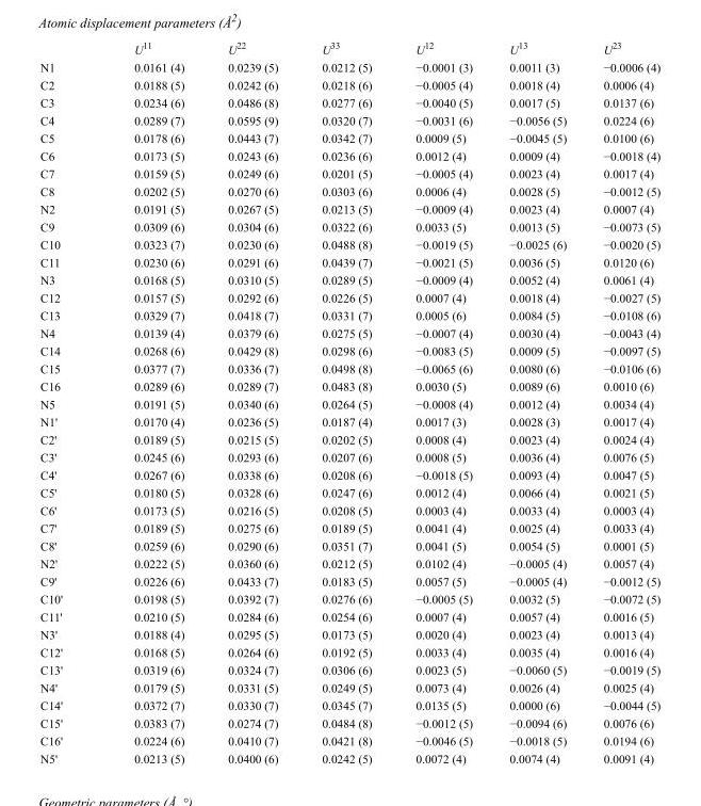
<table><thead><tr><td></td><td>U<sup>11</sup></td><td>U<sup>22</sup></td><td>U<sup>33</sup></td><td>U<sup>12</sup></td><td>U<sup>13</sup></td><td>U<sup>23</sup></td></tr></thead><tbody><tr><td>N1</td><td>0.0161 (4)</td><td>0.0239 (5)</td><td>0.0212 (5)</td><td>−0.0001 (3)</td><td>0.0011 (3)</td><td>−0.0006 (4)</td></tr><tr><td>C2</td><td>0.0188 (5)</td><td>0.0242 (6)</td><td>0.0218 (6)</td><td>−0.0005 (4)</td><td>0.0018 (4)</td><td>0.0006 (4)</td></tr><tr><td>C3</td><td>0.0234 (6)</td><td>0.0486 (8)</td><td>0.0277 (6)</td><td>−0.0040 (5)</td><td>0.0017 (5)</td><td>0.0137 (6)</td></tr><tr><td>C4</td><td>0.0289 (7)</td><td>0.0595 (9)</td><td>0.0320 (7)</td><td>−0.0031 (6)</td><td>−0.0056 (5)</td><td>0.0224 (6)</td></tr><tr><td>C5</td><td>0.0178 (6)</td><td>0.0443 (7)</td><td>0.0342 (7)</td><td>0.0009 (5)</td><td>−0.0045 (5)</td><td>0.0100 (6)</td></tr><tr><td>C6</td><td>0.0173 (5)</td><td>0.0243 (6)</td><td>0.0236 (6)</td><td>0.0012 (4)</td><td>0.0009 (4)</td><td>−0.0018 (4)</td></tr><tr><td>C7</td><td>0.0159 (5)</td><td>0.0249 (6)</td><td>0.0201 (5)</td><td>−0.0005 (4)</td><td>0.0023 (4)</td><td>0.0017 (4)</td></tr><tr><td>C8</td><td>0.0202 (5)</td><td>0.0270 (6)</td><td>0.0303 (6)</td><td>0.0006 (4)</td><td>0.0028 (5)</td><td>−0.0012 (5)</td></tr><tr><td>N2</td><td>0.0191 (5)</td><td>0.0267 (5)</td><td>0.0213 (5)</td><td>−0.0009 (4)</td><td>0.0023 (4)</td><td>0.0007 (4)</td></tr><tr><td>C9</td><td>0.0309 (6)</td><td>0.0304 (6)</td><td>0.0322 (6)</td><td>0.0033 (5)</td><td>0.0013 (5)</td><td>−0.0073 (5)</td></tr><tr><td>C10</td><td>0.0323 (7)</td><td>0.0230 (6)</td><td>0.0488 (8)</td><td>−0.0019 (5)</td><td>−0.0025 (6)</td><td>−0.0020 (5)</td></tr><tr><td>C11</td><td>0.0230 (6)</td><td>0.0291 (6)</td><td>0.0439 (7)</td><td>−0.0021 (5)</td><td>0.0036 (5)</td><td>0.0120 (6)</td></tr><tr><td>N3</td><td>0.0168 (5)</td><td>0.0310 (5)</td><td>0.0289 (5)</td><td>−0.0009 (4)</td><td>0.0052 (4)</td><td>0.0061 (4)</td></tr><tr><td>C12</td><td>0.0157 (5)</td><td>0.0292 (6)</td><td>0.0226 (5)</td><td>0.0007 (4)</td><td>0.0018 (4)</td><td>−0.0027 (5)</td></tr><tr><td>C13</td><td>0.0329 (7)</td><td>0.0418 (7)</td><td>0.0331 (7)</td><td>0.0005 (6)</td><td>0.0084 (5)</td><td>−0.0108 (6)</td></tr><tr><td>N4</td><td>0.0139 (4)</td><td>0.0379 (6)</td><td>0.0275 (5)</td><td>−0.0007 (4)</td><td>0.0030 (4)</td><td>−0.0043 (4)</td></tr><tr><td>C14</td><td>0.0268 (6)</td><td>0.0429 (8)</td><td>0.0298 (6)</td><td>−0.0083 (5)</td><td>0.0009 (5)</td><td>−0.0097 (5)</td></tr><tr><td>C15</td><td>0.0377 (7)</td><td>0.0336 (7)</td><td>0.0498 (8)</td><td>−0.0065 (6)</td><td>0.0080 (6)</td><td>−0.0106 (6)</td></tr><tr><td>C16</td><td>0.0289 (6)</td><td>0.0289 (7)</td><td>0.0483 (8)</td><td>0.0030 (5)</td><td>0.0089 (6)</td><td>0.0010 (6)</td></tr><tr><td>N5</td><td>0.0191 (5)</td><td>0.0340 (6)</td><td>0.0264 (5)</td><td>−0.0008 (4)</td><td>0.0012 (4)</td><td>0.0034 (4)</td></tr><tr><td>N1&#x27;</td><td>0.0170 (4)</td><td>0.0236 (5)</td><td>0.0187 (4)</td><td>0.0017 (3)</td><td>0.0028 (3)</td><td>0.0017 (4)</td></tr><tr><td>C2&#x27;</td><td>0.0189 (5)</td><td>0.0215 (5)</td><td>0.0202 (5)</td><td>0.0008 (4)</td><td>0.0023 (4)</td><td>0.0024 (4)</td></tr><tr><td>C3&#x27;</td><td>0.0245 (6)</td><td>0.0293 (6)</td><td>0.0207 (6)</td><td>0.0008 (5)</td><td>0.0036 (4)</td><td>0.0076 (5)</td></tr><tr><td>C4&#x27;</td><td>0.0267 (6)</td><td>0.0338 (6)</td><td>0.0208 (6)</td><td>−0.0018 (5)</td><td>0.0093 (4)</td><td>0.0047 (5)</td></tr><tr><td>C5&#x27;</td><td>0.0180 (5)</td><td>0.0328 (6)</td><td>0.0247 (6)</td><td>0.0012 (4)</td><td>0.0066 (4)</td><td>0.0021 (5)</td></tr><tr><td>C6&#x27;</td><td>0.0173 (5)</td><td>0.0216 (5)</td><td>0.0208 (5)</td><td>0.0003 (4)</td><td>0.0033 (4)</td><td>0.0003 (4)</td></tr><tr><td>C7&#x27;</td><td>0.0189 (5)</td><td>0.0275 (6)</td><td>0.0189 (5)</td><td>0.0041 (4)</td><td>0.0025 (4)</td><td>0.0033 (4)</td></tr><tr><td>C8&#x27;</td><td>0.0259 (6)</td><td>0.0290 (6)</td><td>0.0351 (7)</td><td>0.0041 (5)</td><td>0.0054 (5)</td><td>0.0001 (5)</td></tr><tr><td>N2&#x27;</td><td>0.0222 (5)</td><td>0.0360 (6)</td><td>0.0212 (5)</td><td>0.0102 (4)</td><td>−0.0005 (4)</td><td>0.0057 (4)</td></tr><tr><td>C9&#x27;</td><td>0.0226 (6)</td><td>0.0433 (7)</td><td>0.0183 (5)</td><td>0.0057 (5)</td><td>−0.0005 (4)</td><td>−0.0012 (5)</td></tr><tr><td>C10&#x27;</td><td>0.0198 (5)</td><td>0.0392 (7)</td><td>0.0276 (6)</td><td>−0.0005 (5)</td><td>0.0032 (5)</td><td>−0.0072 (5)</td></tr><tr><td>C11&#x27;</td><td>0.0210 (5)</td><td>0.0284 (6)</td><td>0.0254 (6)</td><td>0.0007 (4)</td><td>0.0057 (4)</td><td>0.0016 (5)</td></tr><tr><td>N3&#x27;</td><td>0.0188 (4)</td><td>0.0295 (5)</td><td>0.0173 (5)</td><td>0.0020 (4)</td><td>0.0023 (4)</td><td>0.0013 (4)</td></tr><tr><td>C12&#x27;</td><td>0.0168 (5)</td><td>0.0264 (6)</td><td>0.0192 (5)</td><td>0.0033 (4)</td><td>0.0035 (4)</td><td>0.0016 (4)</td></tr><tr><td>C13&#x27;</td><td>0.0319 (6)</td><td>0.0324 (7)</td><td>0.0306 (6)</td><td>0.0023 (5)</td><td>−0.0060 (5)</td><td>−0.0019 (5)</td></tr><tr><td>N4&#x27;</td><td>0.0179 (5)</td><td>0.0331 (5)</td><td>0.0249 (5)</td><td>0.0073 (4)</td><td>0.0026 (4)</td><td>0.0025 (4)</td></tr><tr><td>C14&#x27;</td><td>0.0372 (7)</td><td>0.0330 (7)</td><td>0.0345 (7)</td><td>0.0135 (5)</td><td>0.0000 (6)</td><td>−0.0044 (5)</td></tr><tr><td>C15&#x27;</td><td>0.0383 (7)</td><td>0.0274 (7)</td><td>0.0484 (8)</td><td>−0.0012 (5)</td><td>−0.0094 (6)</td><td>0.0076 (6)</td></tr><tr><td>C16&#x27;</td><td>0.0224 (6)</td><td>0.0410 (7)</td><td>0.0421 (8)</td><td>−0.0046 (5)</td><td>−0.0018 (5)</td><td>0.0194 (6)</td></tr><tr><td>N5&#x27;</td><td>0.0213 (5)</td><td>0.0400 (6)</td><td>0.0242 (5)</td><td>0.0072 (4)</td><td>0.0074 (4)</td><td>0.0091 (4)</td></tr></tbody></table>